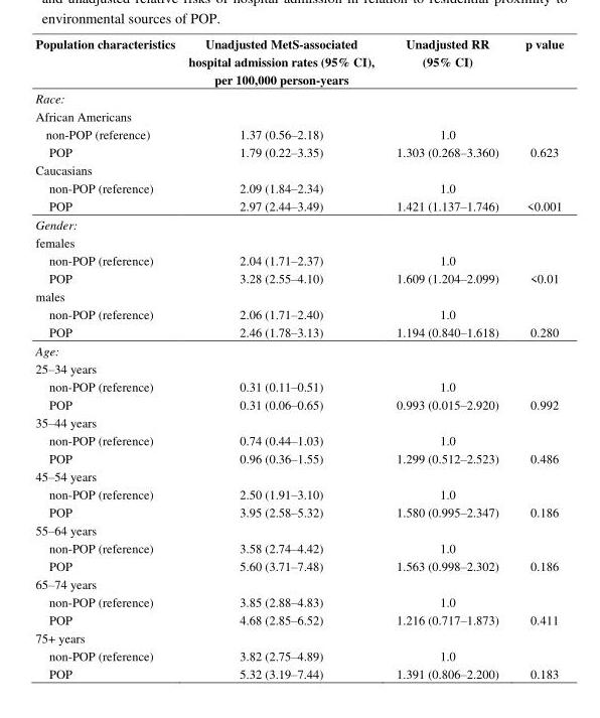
<table><thead><tr><td>Population characteristics</td><td>Unadjusted MetS-associated hospital admission rates (95% CI), per 100,000 person-years</td><td>Unadjusted RR (95% CI)</td><td>p value</td></tr></thead><tbody><tr><td colspan="4">Race:</td></tr><tr><td colspan="4">African Americans</td></tr><tr><td>non-POP (reference)</td><td>1.37 (0.56–2.18)</td><td>1.0</td><td></td></tr><tr><td>POP</td><td>1.79 (0.22–3.35)</td><td>1.303 (0.268–3.360)</td><td>0.623</td></tr><tr><td colspan="4">Caucasians</td></tr><tr><td>non-POP (reference)</td><td>2.09 (1.84–2.34)</td><td>1.0</td><td></td></tr><tr><td>POP</td><td>2.97 (2.44–3.49)</td><td>1.421 (1.137–1.746)</td><td>&lt;0.001</td></tr><tr><td colspan="4">Gender:</td></tr><tr><td colspan="4">females</td></tr><tr><td>non-POP (reference)</td><td>2.04 (1.71–2.37)</td><td>1.0</td><td></td></tr><tr><td>POP</td><td>3.28 (2.55–4.10)</td><td>1.609 (1.204–2.099)</td><td>&lt;0.01</td></tr><tr><td colspan="4">males</td></tr><tr><td>non-POP (reference)</td><td>2.06 (1.71–2.40)</td><td>1.0</td><td></td></tr><tr><td>POP</td><td>2.46 (1.78–3.13)</td><td>1.194 (0.840–1.618)</td><td>0.280</td></tr><tr><td colspan="4">Age:</td></tr><tr><td colspan="4">25–34 years</td></tr><tr><td>non-POP (reference)</td><td>0.31 (0.11–0.51)</td><td>1.0</td><td></td></tr><tr><td>POP</td><td>0.31 (0.06–0.65)</td><td>0.993 (0.015–2.920)</td><td>0.992</td></tr><tr><td colspan="4">35–44 years</td></tr><tr><td>non-POP (reference)</td><td>0.74 (0.44–1.03)</td><td>1.0</td><td></td></tr><tr><td>POP</td><td>0.96 (0.36–1.55)</td><td>1.299 (0.512–2.523)</td><td>0.486</td></tr><tr><td colspan="4">45–54 years</td></tr><tr><td>non-POP (reference)</td><td>2.50 (1.91–3.10)</td><td>1.0</td><td></td></tr><tr><td>POP</td><td>3.95 (2.58–5.32)</td><td>1.580 (0.995–2.347)</td><td>0.186</td></tr><tr><td colspan="4">55–64 years</td></tr><tr><td>non-POP (reference)</td><td>3.58 (2.74–4.42)</td><td>1.0</td><td></td></tr><tr><td>POP</td><td>5.60 (3.71–7.48)</td><td>1.563 (0.998–2.302)</td><td>0.186</td></tr><tr><td colspan="4">65–74 years</td></tr><tr><td>non-POP (reference)</td><td>3.85 (2.88–4.83)</td><td>1.0</td><td></td></tr><tr><td>POP</td><td>4.68 (2.85–6.52)</td><td>1.216 (0.717–1.873)</td><td>0.411</td></tr><tr><td colspan="4">75+ years</td></tr><tr><td>non-POP (reference)</td><td>3.82 (2.75–4.89)</td><td>1.0</td><td></td></tr><tr><td>POP</td><td>5.32 (3.19–7.44)</td><td>1.391 (0.806–2.200)</td><td>0.183</td></tr></tbody></table>